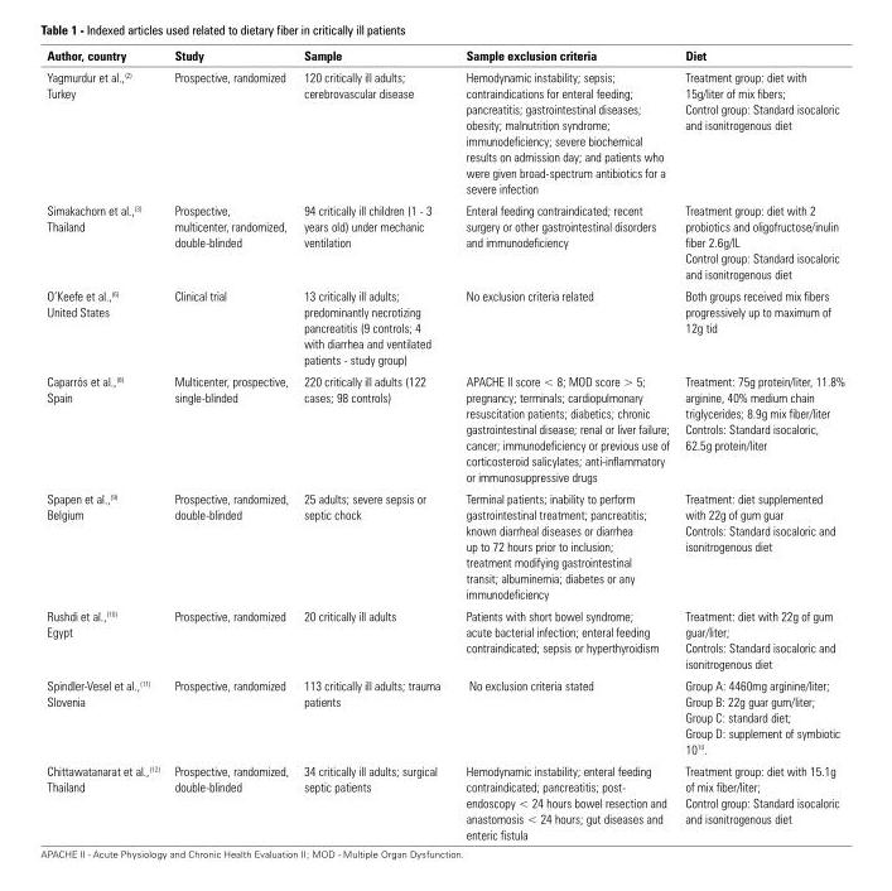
<table><thead><tr><td>Author, country</td><td>Study</td><td>Sample</td><td>Sample exclusion criteria</td><td>Diet</td></tr></thead><tbody><tr><td>Yagmurdur et al.,<sup>(2)</sup> Turkey</td><td>Prospective, randomized</td><td>120 critically ill adults; cerebrovascular disease</td><td>Hemodynamic instability; sepsis; contraindications for enteral feeding; pancreatitis; gastrointestinal diseases; obesity; malnutrition syndrome; immunodeficiency; severe biochemical results on admission day; and patients who were given broad-spectrum antibiotics for a severe infection</td><td>Treatment group: diet with 15g/liter of mix fibers; Control group: Standard isocaloric and isonitrogenous diet</td></tr><tr><td>Simakachorn et al.,<sup>(3)</sup> Thailand</td><td>Prospective, multicenter, randomized, double-blinded</td><td>94 critically ill children (1 - 3 years old) under mechanic ventilation</td><td>Enteral feeding contraindicated; recent surgery or other gastrointestinal disorders and immunodeficiency</td><td>Treatment group: diet with 2 probiotics and oligofructose/inulin fiber 2.6g/lL Control group: Standard isocaloric and isonitrogenous diet</td></tr><tr><td>O’Keefe et al.,<sup>(6)</sup> United States</td><td>Clinical trial</td><td>13 critically ill adults; predominantly necrotizing pancreatitis (9 controls; 4 with diarrhea and ventilated patients - study group)</td><td>No exclusion criteria related</td><td>Both groups received mix fibers progressively up to maximum of 12g tid</td></tr><tr><td>Caparrós et al.,<sup>(8)</sup> Spain</td><td>Multicenter, prospective, single-blinded</td><td>220 critically ill adults (122 cases; 98 controls)</td><td>APACHE II score &lt; 8; MOD score &gt; 5; pregnancy; terminals; cardiopulmonary resuscitation patients; diabetics; chronic gastrointestinal disease; renal or liver failure; cancer; immunodeficiency or previous use of corticosteroid salicylates; anti-inflammatory or immunosuppressive drugs</td><td>Treatment: 75g protein/liter, 11.8% arginine, 40% medium chain triglycerides; 8.9g mix fiber/liter Controls: Standard isocaloric, 62.5g protein/liter</td></tr><tr><td>Spapen et al.,<sup>(9)</sup> Belgium</td><td>Prospective, randomized, double-blinded</td><td>25 adults; severe sepsis or septic chock</td><td>Terminal patients; inability to perform gastrointestinal treatment; pancreatitis; known diarrheal diseases or diarrhea up to 72 hours prior to inclusion; treatment modifying gastrointestinal transit; albuminemia; diabetes or any immunodeficiency</td><td>Treatment: diet supplemented with 22g of gum guar Controls: Standard isocaloric and isonitrogenous diet</td></tr><tr><td>Rushdi et al.,<sup>(10)</sup> Egypt</td><td>Prospective, randomized</td><td>20 critically ill adults</td><td>Patients with short bowel syndrome; acute bacterial infection; enteral feeding contraindicated; sepsis or hyperthyroidism</td><td>Treatment: diet with 22g of gum guar/liter; Controls: Standard isocaloric and isonitrogenous diet</td></tr><tr><td>Spindler-Vesel et al.,<sup>(11)</sup> Slovenia</td><td>Prospective, randomized</td><td>113 critically ill adults; trauma patients</td><td>No exclusion criteria stated</td><td>Group A: 4460mg arginine/liter; Group B: 22g guar gum/liter; Group C: standard diet; Group D: supplement of symbiotic 10<sup>10</sup>.</td></tr><tr><td>Chittawatanarat et al.,<sup>(12)</sup> Thailand</td><td>Prospective, randomized, double-blinded</td><td>34 critically ill adults; surgical septic patients</td><td>Hemodynamic instability; enteral feeding contraindicated; pancreatitis; post- endoscopy &lt; 24 hours bowel resection and anastomosis &lt; 24 hours; gut diseases and enteric fistula</td><td>Treatment group: diet with 15.1g of mix fiber/liter; Control group: Standard isocaloric and isonitrogenous diet</td></tr></tbody></table>